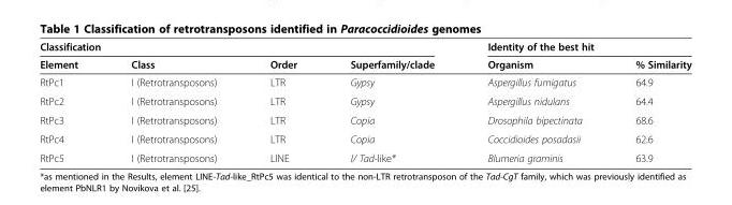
<table><thead><tr><td colspan="4">Classification</td><td colspan="2">Identity of the best hit</td></tr><tr><td>Element</td><td>Class</td><td>Order</td><td>Superfamily/clade</td><td>Organism</td><td>% Similarity</td></tr></thead><tbody><tr><td>RtPc1</td><td>I (Retrotransposons)</td><td>LTR</td><td>Gypsy</td><td>Aspergillus fumigatus</td><td>64.9</td></tr><tr><td>RtPc2</td><td>I (Retrotransposons)</td><td>LTR</td><td>Gypsy</td><td>Aspergillus nidulans</td><td>64.4</td></tr><tr><td>RtPc3</td><td>I (Retrotransposons)</td><td>LTR</td><td>Copia</td><td>Drosophila bipectinata</td><td>68.6</td></tr><tr><td>RtPc4</td><td>I (Retrotransposons)</td><td>LTR</td><td>Copia</td><td>Coccidioides posadasii</td><td>62.6</td></tr><tr><td>RtPc5</td><td>I (Retrotransposons)</td><td>LINE</td><td>I/ Tad-like*</td><td>Blumeria graminis</td><td>63.9</td></tr></tbody></table>